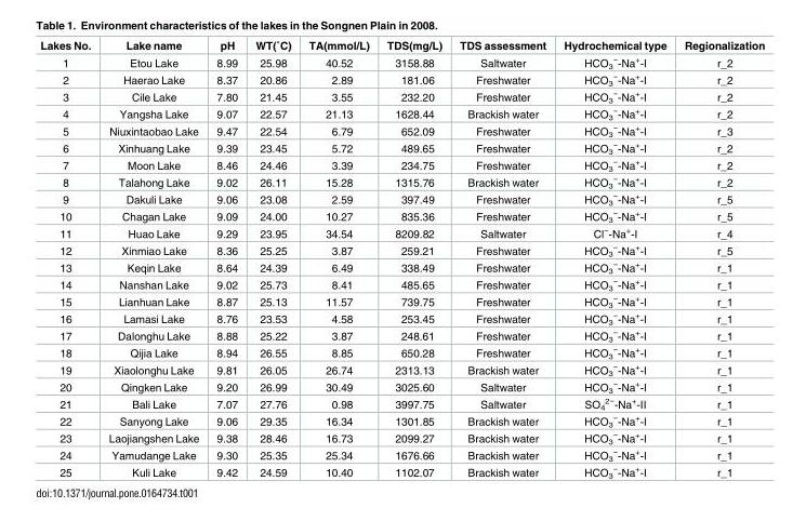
<table><thead><tr><td>Lakes No.</td><td>Lake name</td><td>pH</td><td>WT(˚C)</td><td>TA(mmol/L)</td><td>TDS(mg/L)</td><td>TDS assessment</td><td>Hydrochemical type</td><td>Regionalization</td></tr></thead><tbody><tr><td>1</td><td>Etou Lake</td><td>8.99</td><td>25.98</td><td>40.52</td><td>3158.88</td><td>Saltwater</td><td>HCO<sub>3</sub> <sup>−</sup>-Na<sup>+</sup>-I</td><td>r_2</td></tr><tr><td>2</td><td>Haerao Lake</td><td>8.37</td><td>20.86</td><td>2.89</td><td>181.06</td><td>Freshwater</td><td>HCO<sub>3</sub> <sup>−</sup>-Na<sup>+</sup>-I</td><td>r_2</td></tr><tr><td>3</td><td>Cile Lake</td><td>7.80</td><td>21.45</td><td>3.55</td><td>232.20</td><td>Freshwater</td><td>HCO<sub>3</sub> <sup>−</sup>-Na<sup>+</sup>-I</td><td>r_2</td></tr><tr><td>4</td><td>Yangsha Lake</td><td>9.07</td><td>22.57</td><td>21.13</td><td>1628.44</td><td>Brackish water</td><td>HCO<sub>3</sub> <sup>−</sup>-Na<sup>+</sup>-I</td><td>r_2</td></tr><tr><td>5</td><td>Niuxintaobao Lake</td><td>9.47</td><td>22.54</td><td>6.79</td><td>652.09</td><td>Freshwater</td><td>HCO<sub>3</sub> <sup>−</sup>-Na<sup>+</sup>-I</td><td>r_3</td></tr><tr><td>6</td><td>Xinhuang Lake</td><td>9.39</td><td>23.45</td><td>5.72</td><td>489.65</td><td>Freshwater</td><td>HCO<sub>3</sub> <sup>−</sup>-Na<sup>+</sup>-I</td><td>r_2</td></tr><tr><td>7</td><td>Moon Lake</td><td>8.46</td><td>24.46</td><td>3.39</td><td>234.75</td><td>Freshwater</td><td>HCO<sub>3</sub> <sup>−</sup>-Na<sup>+</sup>-I</td><td>r_2</td></tr><tr><td>8</td><td>Talahong Lake</td><td>9.02</td><td>26.11</td><td>15.28</td><td>1315.76</td><td>Brackish water</td><td>HCO<sub>3</sub> <sup>−</sup>-Na<sup>+</sup>-I</td><td>r_2</td></tr><tr><td>9</td><td>Dakuli Lake</td><td>9.06</td><td>23.08</td><td>2.59</td><td>397.49</td><td>Freshwater</td><td>HCO<sub>3</sub> <sup>−</sup>-Na<sup>+</sup>-I</td><td>r_5</td></tr><tr><td>10</td><td>Chagan Lake</td><td>9.09</td><td>24.00</td><td>10.27</td><td>835.36</td><td>Freshwater</td><td>HCO<sub>3</sub> <sup>−</sup>-Na<sup>+</sup>-I</td><td>r_5</td></tr><tr><td>11</td><td>Huao Lake</td><td>9.29</td><td>23.95</td><td>34.54</td><td>8209.82</td><td>Saltwater</td><td>Cl<sup>−</sup>-Na<sup>+</sup>-I</td><td>r_4</td></tr><tr><td>12</td><td>Xinmiao Lake</td><td>8.36</td><td>25.25</td><td>3.87</td><td>259.21</td><td>Freshwater</td><td>HCO<sub>3</sub> <sup>−</sup>-Na<sup>+</sup>-I</td><td>r_5</td></tr><tr><td>13</td><td>Keqin Lake</td><td>8.64</td><td>24.39</td><td>6.49</td><td>338.49</td><td>Freshwater</td><td>HCO<sub>3</sub> <sup>−</sup>-Na<sup>+</sup>-I</td><td>r_1</td></tr><tr><td>14</td><td>Nanshan Lake</td><td>9.02</td><td>25.73</td><td>8.41</td><td>485.65</td><td>Freshwater</td><td>HCO<sub>3</sub> <sup>−</sup>-Na<sup>+</sup>-I</td><td>r_1</td></tr><tr><td>15</td><td>Lianhuan Lake</td><td>8.87</td><td>25.13</td><td>11.57</td><td>739.75</td><td>Freshwater</td><td>HCO<sub>3</sub> <sup>−</sup>-Na<sup>+</sup>-I</td><td>r_1</td></tr><tr><td>16</td><td>Lamasi Lake</td><td>8.76</td><td>23.53</td><td>4.58</td><td>253.45</td><td>Freshwater</td><td>HCO<sub>3</sub> <sup>−</sup>-Na<sup>+</sup>-I</td><td>r_1</td></tr><tr><td>17</td><td>Dalonghu Lake</td><td>8.88</td><td>25.22</td><td>3.87</td><td>248.61</td><td>Freshwater</td><td>HCO<sub>3</sub> <sup>−</sup>-Na<sup>+</sup>-I</td><td>r_1</td></tr><tr><td>18</td><td>Qijia Lake</td><td>8.94</td><td>26.55</td><td>8.85</td><td>650.28</td><td>Freshwater</td><td>HCO<sub>3</sub> <sup>−</sup>-Na<sup>+</sup>-I</td><td>r_1</td></tr><tr><td>19</td><td>Xiaolonghu Lake</td><td>9.81</td><td>26.05</td><td>26.74</td><td>2313.13</td><td>Brackish water</td><td>HCO<sub>3</sub> <sup>−</sup>-Na<sup>+</sup>-I</td><td>r_1</td></tr><tr><td>20</td><td>Qingken Lake</td><td>9.20</td><td>26.99</td><td>30.49</td><td>3025.60</td><td>Saltwater</td><td>HCO<sub>3</sub> <sup>−</sup>-Na<sup>+</sup>-I</td><td>r_1</td></tr><tr><td>21</td><td>Bali Lake</td><td>7.07</td><td>27.76</td><td>0.98</td><td>3997.75</td><td>Saltwater</td><td>SO<sub>4</sub> <sup>2−</sup>-Na<sup>+</sup>-II</td><td>r_1</td></tr><tr><td>22</td><td>Sanyong Lake</td><td>9.06</td><td>29.35</td><td>16.34</td><td>1301.85</td><td>Brackish water</td><td>HCO<sub>3</sub> <sup>−</sup>-Na<sup>+</sup>-I</td><td>r_1</td></tr><tr><td>23</td><td>Laojiangshen Lake</td><td>9.38</td><td>28.46</td><td>16.73</td><td>2099.27</td><td>Brackish water</td><td>HCO<sub>3</sub> <sup>−</sup>-Na<sup>+</sup>-I</td><td>r_1</td></tr><tr><td>24</td><td>Yamudange Lake</td><td>9.30</td><td>25.35</td><td>25.34</td><td>1676.66</td><td>Brackish water</td><td>HCO<sub>3</sub> <sup>−</sup>-Na<sup>+</sup>-I</td><td>r_1</td></tr><tr><td>25</td><td>Kuli Lake</td><td>9.42</td><td>24.59</td><td>10.40</td><td>1102.07</td><td>Brackish water</td><td>HCO<sub>3</sub> <sup>−</sup>-Na<sup>+</sup>-I</td><td>r_1</td></tr></tbody></table>